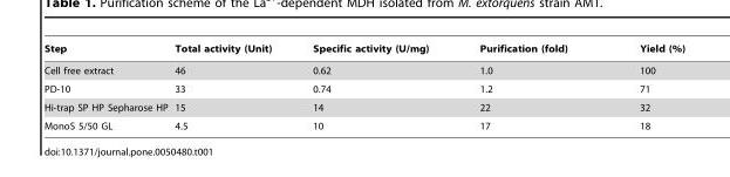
<table><thead><tr><td>Step</td><td>Total activity (Unit)</td><td>Specific activity (U/mg)</td><td>Purification (fold)</td><td>Yield (%)</td></tr></thead><tbody><tr><td>Cell free extract</td><td>46</td><td>0.62</td><td>1.0</td><td>100</td></tr><tr><td>PD-10</td><td>33</td><td>0.74</td><td>1.2</td><td>71</td></tr><tr><td>Hi-trap SP HP Sepharose HP</td><td>15</td><td>14</td><td>22</td><td>32</td></tr><tr><td>MonoS 5/50 GL</td><td>4.5</td><td>10</td><td>17</td><td>18</td></tr></tbody></table>